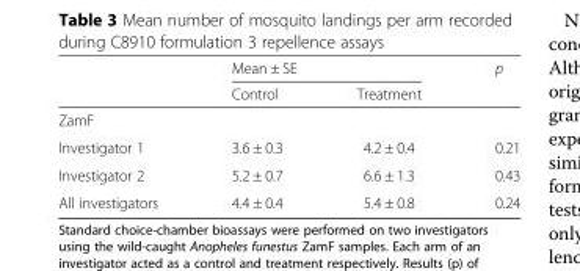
<table><thead><tr><td rowspan="2"></td><td colspan="2">Mean ± SE</td><td rowspan="2">p</td></tr><tr><td>Control</td><td>Treatment</td></tr></thead><tbody><tr><td colspan="4">ZamF</td></tr><tr><td>Investigator 1</td><td>3.6 ± 0.3</td><td>4.2 ± 0.4</td><td>0.21</td></tr><tr><td>Investigator 2</td><td>5.2 ± 0.7</td><td>6.6 ± 1.3</td><td>0.43</td></tr><tr><td>All investigators</td><td>4.4 ± 0.4</td><td>5.4 ± 0.8</td><td>0.24</td></tr></tbody></table>